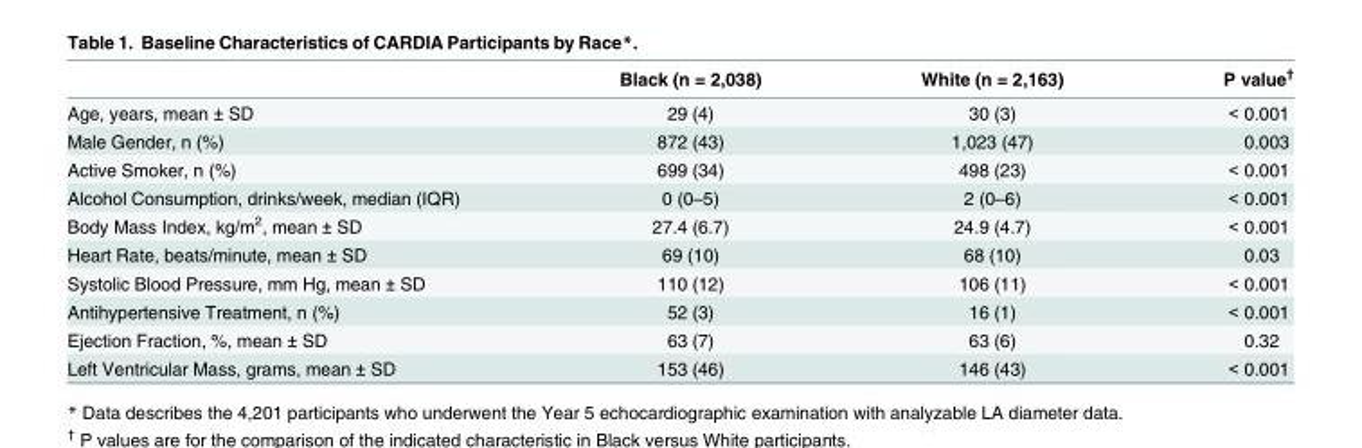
<table><thead><tr><td></td><td>Black (n = 2,038)</td><td>White (n = 2,163)</td><td>P value<sup>†</sup></td></tr></thead><tbody><tr><td>Age, years, mean ± SD</td><td>29 (4)</td><td>30 (3)</td><td>&lt; 0.001</td></tr><tr><td>Male Gender, n (%)</td><td>872 (43)</td><td>1,023 (47)</td><td>0.003</td></tr><tr><td>Active Smoker, n (%)</td><td>699 (34)</td><td>498 (23)</td><td>&lt; 0.001</td></tr><tr><td>Alcohol Consumption, drinks/week, median (IQR)</td><td>0 (0–5)</td><td>2 (0–6)</td><td>&lt; 0.001</td></tr><tr><td>Body Mass Index, kg/m<sup>2</sup>, mean ± SD</td><td>27.4 (6.7)</td><td>24.9 (4.7)</td><td>&lt; 0.001</td></tr><tr><td>Heart Rate, beats/minute, mean ± SD</td><td>69 (10)</td><td>68 (10)</td><td>0.03</td></tr><tr><td>Systolic Blood Pressure, mm Hg, mean ± SD</td><td>110 (12)</td><td>106 (11)</td><td>&lt; 0.001</td></tr><tr><td>Antihypertensive Treatment, n (%)</td><td>52 (3)</td><td>16 (1)</td><td>&lt; 0.001</td></tr><tr><td>Ejection Fraction, %, mean ± SD</td><td>63 (7)</td><td>63 (6)</td><td>0.32</td></tr><tr><td>Left Ventricular Mass, grams, mean ± SD</td><td>153 (46)</td><td>146 (43)</td><td>&lt; 0.001</td></tr></tbody></table>